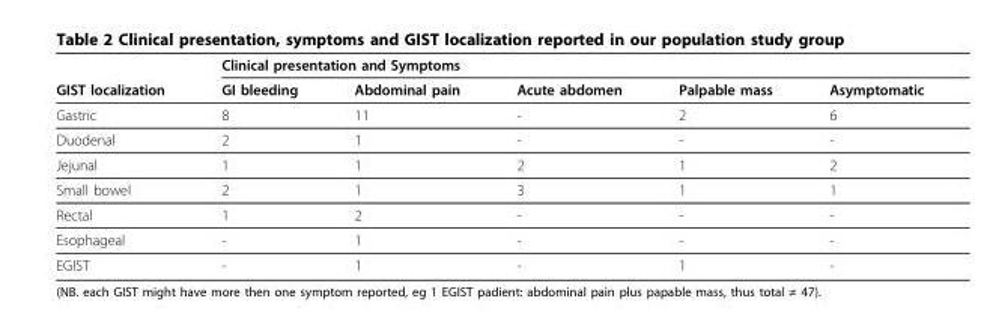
<table><thead><tr><td rowspan="2">GIST localization</td><td colspan="5">Clinical presentation and Symptoms</td></tr><tr><td>GI bleeding</td><td>Abdominal pain</td><td>Acute abdomen</td><td>Palpable mass</td><td>Asymptomatic</td></tr></thead><tbody><tr><td>Gastric</td><td>8</td><td>11</td><td>-</td><td>2</td><td>6</td></tr><tr><td>Duodenal</td><td>2</td><td>1</td><td>-</td><td>-</td><td>-</td></tr><tr><td>Jejunal</td><td>1</td><td>1</td><td>2</td><td>1</td><td>2</td></tr><tr><td>Small bowel</td><td>2</td><td>1</td><td>3</td><td>1</td><td>1</td></tr><tr><td>Rectal</td><td>1</td><td>2</td><td>-</td><td>-</td><td>-</td></tr><tr><td>Esophageal</td><td>-</td><td>1</td><td>-</td><td>-</td><td>-</td></tr><tr><td>EGIST</td><td>-</td><td>1</td><td>-</td><td>1</td><td>-</td></tr></tbody></table>